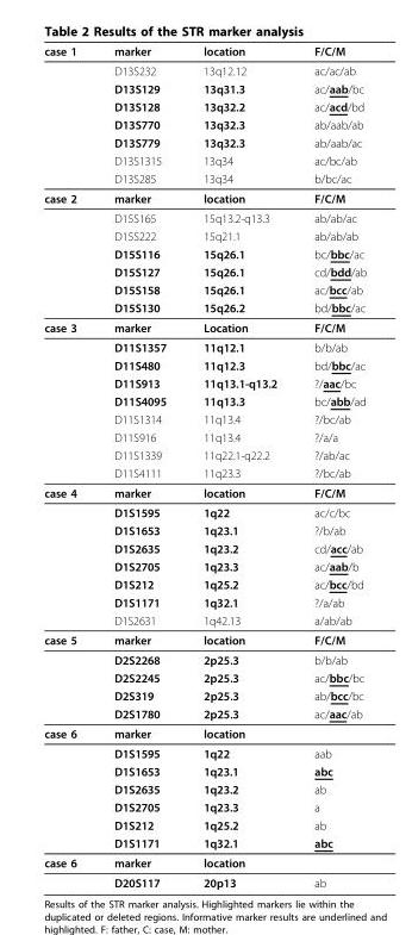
<table><thead><tr><td>case 1</td><td>marker</td><td>location</td><td>F/C/M</td></tr></thead><tbody><tr><td></td><td>D13S232</td><td>13q12.12</td><td>ac/ac/ab</td></tr><tr><td></td><td>D13S129</td><td>13q31.3</td><td>ac/aab/bc</td></tr><tr><td></td><td>D13S128</td><td>13q32.2</td><td>ac/acd/bd</td></tr><tr><td></td><td>D13S770</td><td>13q32.3</td><td>ab/aab/ab</td></tr><tr><td></td><td>D13S779</td><td>13q32.3</td><td>ab/aab/ac</td></tr><tr><td></td><td>D13S1315</td><td>13q34</td><td>ac/bc/ab</td></tr><tr><td></td><td>D13S285</td><td>13q34</td><td>b/bc/ac</td></tr><tr><td rowspan="7">case 2</td><td>marker</td><td>location</td><td>F/C/M</td></tr><tr><td>D15S165</td><td>15q13.2-q13.3</td><td>ab/ab/ac</td></tr><tr><td>D15S222</td><td>15q21.1</td><td>ab/ab/ab</td></tr><tr><td>D15S116</td><td>15q26.1</td><td>bc/bbc/ac</td></tr><tr><td>D15S127</td><td>15q26.1</td><td>cd/bdd/ab</td></tr><tr><td>D15S158</td><td>15q26.1</td><td>ac/bcc/ab</td></tr><tr><td>D15S130</td><td>15q26.2</td><td>bd/bbc/ac</td></tr><tr><td rowspan="9">case 3</td><td>marker</td><td>Location</td><td>F/C/M</td></tr><tr><td>D11S1357</td><td>11q12.1</td><td>b/b/ab</td></tr><tr><td>D11S480</td><td>11q12.3</td><td>bd/bbc/ac</td></tr><tr><td>D11S913</td><td>11q13.1-q13.2</td><td>?/aac/bc</td></tr><tr><td>D11S4095</td><td>11q13.3</td><td>bc/abb/ad</td></tr><tr><td>D11S1314</td><td>11q13.4</td><td>?/bc/ab</td></tr><tr><td>D11S916</td><td>11q13.4</td><td>?/a/a</td></tr><tr><td>D11S1339</td><td>11q22.1-q22.2</td><td>?/ab/ac</td></tr><tr><td>D11S4111</td><td>11q23.3</td><td>?/bc/ab</td></tr><tr><td rowspan="8">case 4</td><td>marker</td><td>location</td><td>F/C/M</td></tr><tr><td>D1S1595</td><td>1q22</td><td>ac/c/bc</td></tr><tr><td>D1S1653</td><td>1q23.1</td><td>?/b/ab</td></tr><tr><td>D1S2635</td><td>1q23.2</td><td>cd/acc/ab</td></tr><tr><td>D1S2705</td><td>1q23.3</td><td>ac/aab/b</td></tr><tr><td>D1S212</td><td>1q25.2</td><td>ac/bcc/bd</td></tr><tr><td>D1S1171</td><td>1q32.1</td><td>?/a/ab</td></tr><tr><td>D1S2631</td><td>1q42.13</td><td>a/ab/ab</td></tr><tr><td rowspan="5">case 5</td><td>marker</td><td>location</td><td>F/C/M</td></tr><tr><td>D2S2268</td><td>2p25.3</td><td>b/b/ab</td></tr><tr><td>D2S2245</td><td>2p25.3</td><td>ac/bbc/bc</td></tr><tr><td>D2S319</td><td>2p25.3</td><td>ab/bcc/bc</td></tr><tr><td>D2S1780</td><td>2p25.3</td><td>ac/aac/ab</td></tr><tr><td rowspan="7">case 6</td><td>marker</td><td>location</td><td></td></tr><tr><td>D1S1595</td><td>1q22</td><td>aab</td></tr><tr><td>D1S1653</td><td>1q23.1</td><td>abc</td></tr><tr><td>D1S2635</td><td>1q23.2</td><td>ab</td></tr><tr><td>D1S2705</td><td>1q23.3</td><td>a</td></tr><tr><td>D1S212</td><td>1q25.2</td><td>ab</td></tr><tr><td>D1S1171</td><td>1q32.1</td><td>abc</td></tr><tr><td rowspan="2">case 6</td><td>marker</td><td>location</td><td></td></tr><tr><td>D20S117</td><td>20p13</td><td>ab</td></tr></tbody></table>